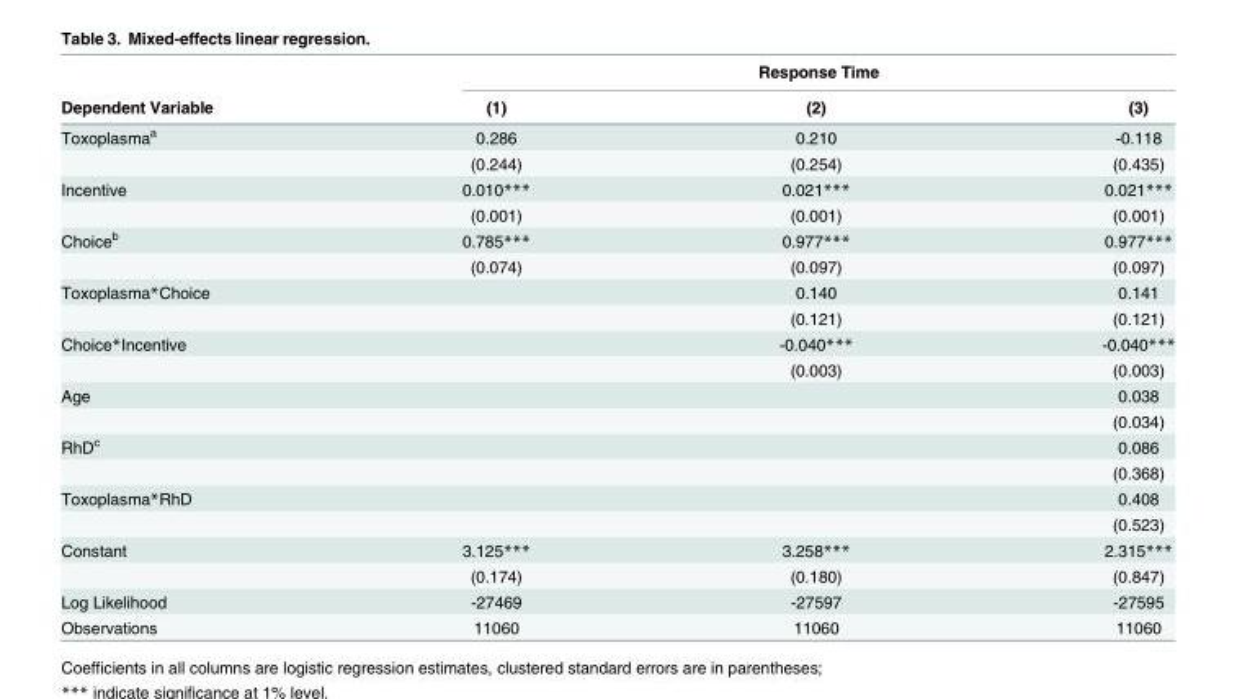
<table><thead><tr><td rowspan="2">Dependent Variable</td><td colspan="3">Response Time</td></tr><tr><td>(1)</td><td>(2)</td><td>(3)</td></tr></thead><tbody><tr><td rowspan="2">Toxoplasma<sup>a</sup></td><td>0.286</td><td>0.210</td><td>-0.118</td></tr><tr><td>(0.244)</td><td>(0.254)</td><td>(0.435)</td></tr><tr><td rowspan="2">Incentive</td><td>0.010***</td><td>0.021***</td><td>0.021***</td></tr><tr><td>(0.001)</td><td>(0.001)</td><td>(0.001)</td></tr><tr><td rowspan="2">Choice<sup>b</sup></td><td>0.785***</td><td>0.977***</td><td>0.977***</td></tr><tr><td>(0.074)</td><td>(0.097)</td><td>(0.097)</td></tr><tr><td rowspan="2">Toxoplasma*Choice</td><td></td><td>0.140</td><td>0.141</td></tr><tr><td></td><td>(0.121)</td><td>(0.121)</td></tr><tr><td rowspan="2">Choice*Incentive</td><td></td><td>-0.040***</td><td>-0.040***</td></tr><tr><td></td><td>(0.003)</td><td>(0.003)</td></tr><tr><td rowspan="2">Age</td><td></td><td></td><td>0.038</td></tr><tr><td></td><td></td><td>(0.034)</td></tr><tr><td rowspan="2">RhD<sup>c</sup></td><td></td><td></td><td>0.086</td></tr><tr><td></td><td></td><td>(0.368)</td></tr><tr><td rowspan="2">Toxoplasma*RhD</td><td></td><td></td><td>0.408</td></tr><tr><td></td><td></td><td>(0.523)</td></tr><tr><td rowspan="2">Constant</td><td>3.125***</td><td>3.258***</td><td>2.315***</td></tr><tr><td>(0.174)</td><td>(0.180)</td><td>(0.847)</td></tr><tr><td>Log Likelihood</td><td>-27469</td><td>-27597</td><td>-27595</td></tr><tr><td>Observations</td><td>11060</td><td>11060</td><td>11060</td></tr></tbody></table>